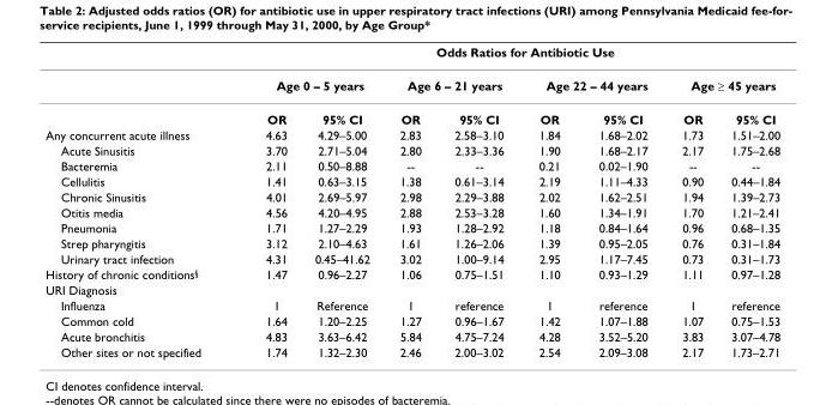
<table><thead><tr><td rowspan="3"></td><td colspan="8">Odds Ratios for Antibiotic Use</td></tr><tr><td colspan="2">Age 0 – 5 years</td><td colspan="2">Age 6 – 21 years</td><td colspan="2">Age 22 – 44 years</td><td colspan="2">Age ≥ 45 years</td></tr><tr><td>OR</td><td>95% CI</td><td>OR</td><td>95% CI</td><td>OR</td><td>95% CI</td><td>OR</td><td>95% CI</td></tr></thead><tbody><tr><td>Any concurrent acute illness</td><td>4.63</td><td>4.29–5.00</td><td>2.83</td><td>2.58–3.10</td><td>1.84</td><td>1.68–2.02</td><td>1.73</td><td>1.51–2.00</td></tr><tr><td>Acute Sinusitis</td><td>3.70</td><td>2.71–5.04</td><td>2.80</td><td>2.33–3.36</td><td>1.90</td><td>1.68–2.17</td><td>2.17</td><td>1.75–2.68</td></tr><tr><td>Bacteremia</td><td>2.11</td><td>0.50–8.88</td><td>--</td><td>--</td><td>0.21</td><td>0.02–1.90</td><td>--</td><td>--</td></tr><tr><td>Cellulitis</td><td>1.41</td><td>0.63–3.15</td><td>1.38</td><td>0.61–3.14</td><td>2.19</td><td>1.11–4.33</td><td>0.90</td><td>0.44–1.84</td></tr><tr><td>Chronic Sinusitis</td><td>4.01</td><td>2.69–5.97</td><td>2.98</td><td>2.29–3.88</td><td>2.02</td><td>1.62–2.51</td><td>1.94</td><td>1.39–2.73</td></tr><tr><td>Otitis media</td><td>4.56</td><td>4.20–4.95</td><td>2.88</td><td>2.53–3.28</td><td>1.60</td><td>1.34–1.91</td><td>1.70</td><td>1.21–2.41</td></tr><tr><td>Pneumonia</td><td>1.71</td><td>1.27–2.29</td><td>1.93</td><td>1.28–2.92</td><td>1.18</td><td>0.84–1.64</td><td>0.96</td><td>0.68–1.35</td></tr><tr><td>Strep pharyngitis</td><td>3.12</td><td>2.10–4.63</td><td>1.61</td><td>1.26–2.06</td><td>1.39</td><td>0.95–2.05</td><td>0.76</td><td>0.31–1.84</td></tr><tr><td>Urinary tract infection</td><td>4.31</td><td>0.45–41.62</td><td>3.02</td><td>1.00–9.14</td><td>2.95</td><td>1.17–7.45</td><td>0.73</td><td>0.31–1.73</td></tr><tr><td>History of chronic conditions<sup>§</sup></td><td>1.47</td><td>0.96–2.27</td><td>1.06</td><td>0.75–1.51</td><td>1.10</td><td>0.93–1.29</td><td>1.11</td><td>0.97–1.28</td></tr><tr><td colspan="9">URI Diagnosis</td></tr><tr><td>Influenza</td><td>1</td><td>Reference</td><td>1</td><td>reference</td><td>1</td><td>reference</td><td>1</td><td>reference</td></tr><tr><td>Common cold</td><td>1.64</td><td>1.20–2.25</td><td>1.27</td><td>0.96–1.67</td><td>1.42</td><td>1.07–1.88</td><td>1.07</td><td>0.75–1.53</td></tr><tr><td>Acute bronchitis</td><td>4.83</td><td>3.63–6.42</td><td>5.84</td><td>4.75–7.24</td><td>4.28</td><td>3.52–5.20</td><td>3.83</td><td>3.07–4.78</td></tr><tr><td>Other sites or not specified</td><td>1.74</td><td>1.32–2.30</td><td>2.46</td><td>2.00–3.02</td><td>2.54</td><td>2.09–3.08</td><td>2.17</td><td>1.73–2.71</td></tr></tbody></table>